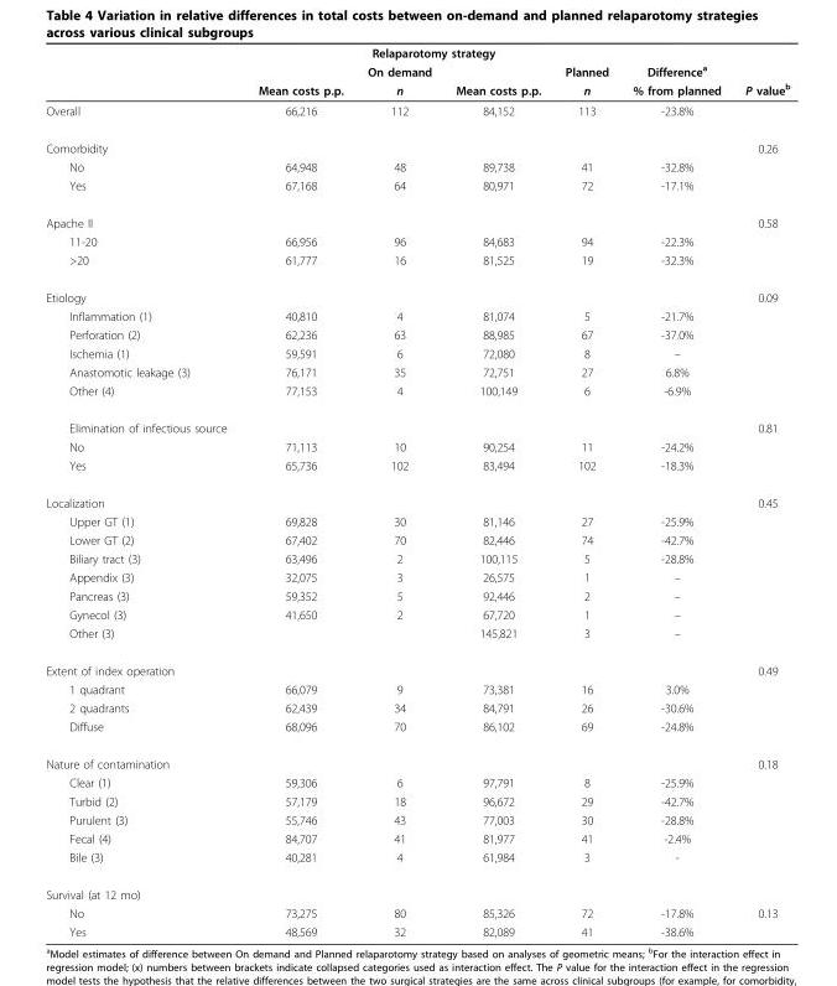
<table><thead><tr><td rowspan="3"></td><td colspan="4">Relaparotomy strategy</td><td rowspan="3">Difference<sup>a</sup> % from planned</td><td rowspan="3">P value<sup>b</sup></td></tr><tr><td rowspan="2">Mean costs p.p.</td><td rowspan="2">On demand n</td><td rowspan="2">Mean costs p.p.</td><td rowspan="2">Planned n</td></tr><tr></tr></thead><tbody><tr><td>Overall</td><td>66,216</td><td>112</td><td>84,152</td><td>113</td><td>-23.8%</td><td></td></tr><tr><td>Comorbidity</td><td></td><td></td><td></td><td></td><td></td><td>0.26</td></tr><tr><td>No</td><td>64,948</td><td>48</td><td>89,738</td><td>41</td><td>-32.8%</td><td></td></tr><tr><td>Yes</td><td>67,168</td><td>64</td><td>80,971</td><td>72</td><td>-17.1%</td><td></td></tr><tr><td>Apache II</td><td></td><td></td><td></td><td></td><td></td><td>0.58</td></tr><tr><td>11-20</td><td>66,956</td><td>96</td><td>84,683</td><td>94</td><td>-22.3%</td><td></td></tr><tr><td>&gt;20</td><td>61,777</td><td>16</td><td>81,525</td><td>19</td><td>-32.3%</td><td></td></tr><tr><td>Etiology</td><td></td><td></td><td></td><td></td><td></td><td>0.09</td></tr><tr><td>Inflammation (1)</td><td>40,810</td><td>4</td><td>81,074</td><td>5</td><td>-21.7%</td><td></td></tr><tr><td>Perforation (2)</td><td>62,236</td><td>63</td><td>88,985</td><td>67</td><td>-37.0%</td><td></td></tr><tr><td>Ischemia (1)</td><td>59,591</td><td>6</td><td>72,080</td><td>8</td><td>–</td><td></td></tr><tr><td>Anastomotic leakage (3)</td><td>76,171</td><td>35</td><td>72,751</td><td>27</td><td>6.8%</td><td></td></tr><tr><td>Other (4)</td><td>77,153</td><td>4</td><td>100,149</td><td>6</td><td>-6.9%</td><td></td></tr><tr><td>Elimination of infectious source</td><td></td><td></td><td></td><td></td><td></td><td>0.81</td></tr><tr><td>No</td><td>71,113</td><td>10</td><td>90,254</td><td>11</td><td>-24.2%</td><td></td></tr><tr><td>Yes</td><td>65,736</td><td>102</td><td>83,494</td><td>102</td><td>-18.3%</td><td></td></tr><tr><td>Localization</td><td></td><td></td><td></td><td></td><td></td><td>0.45</td></tr><tr><td>Upper GT (1)</td><td>69,828</td><td>30</td><td>81,146</td><td>27</td><td>-25.9%</td><td></td></tr><tr><td>Lower GT (2)</td><td>67,402</td><td>70</td><td>82,446</td><td>74</td><td>-42.7%</td><td></td></tr><tr><td>Biliary tract (3)</td><td>63,496</td><td>2</td><td>100,115</td><td>5</td><td>-28.8%</td><td></td></tr><tr><td>Appendix (3)</td><td>32,075</td><td>3</td><td>26,575</td><td>1</td><td>–</td><td></td></tr><tr><td>Pancreas (3)</td><td>59,352</td><td>5</td><td>92,446</td><td>2</td><td>–</td><td></td></tr><tr><td>Gynecol (3)</td><td>41,650</td><td>2</td><td>67,720</td><td>1</td><td>–</td><td></td></tr><tr><td>Other (3)</td><td></td><td></td><td>145,821</td><td>3</td><td>–</td><td></td></tr><tr><td>Extent of index operation</td><td></td><td></td><td></td><td></td><td></td><td>0.49</td></tr><tr><td>1 quadrant</td><td>66,079</td><td>9</td><td>73,381</td><td>16</td><td>3.0%</td><td></td></tr><tr><td>2 quadrants</td><td>62,439</td><td>34</td><td>84,791</td><td>26</td><td>-30.6%</td><td></td></tr><tr><td>Diffuse</td><td>68,096</td><td>70</td><td>86,102</td><td>69</td><td>-24.8%</td><td></td></tr><tr><td>Nature of contamination</td><td></td><td></td><td></td><td></td><td></td><td>0.18</td></tr><tr><td>Clear (1)</td><td>59,306</td><td>6</td><td>97,791</td><td>8</td><td>-25.9%</td><td></td></tr><tr><td>Turbid (2)</td><td>57,179</td><td>18</td><td>96,672</td><td>29</td><td>-42.7%</td><td></td></tr><tr><td>Purulent (3)</td><td>55,746</td><td>43</td><td>77,003</td><td>30</td><td>-28.8%</td><td></td></tr><tr><td>Fecal (4)</td><td>84,707</td><td>41</td><td>81,977</td><td>41</td><td>-2.4%</td><td></td></tr><tr><td>Bile (3)</td><td>40,281</td><td>4</td><td>61,984</td><td>3</td><td>-</td><td></td></tr><tr><td colspan="7">Survival (at 12 mo)</td></tr><tr><td>No</td><td>73,275</td><td>80</td><td>85,326</td><td>72</td><td>-17.8%</td><td>0.13</td></tr><tr><td>Yes</td><td>48,569</td><td>32</td><td>82,089</td><td>41</td><td>-38.6%</td><td></td></tr></tbody></table>